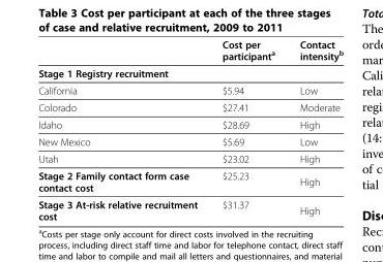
<table><thead><tr><td></td><td>Cost per participant<sup>a</sup></td><td>Contact intensity<sup>b</sup></td></tr></thead><tbody><tr><td colspan="3">Stage 1 Registry recruitment</td></tr><tr><td>California</td><td>$5.94</td><td>Low</td></tr><tr><td>Colorado</td><td>$27.41</td><td>Moderate</td></tr><tr><td>Idaho</td><td>$28.69</td><td>High</td></tr><tr><td>New Mexico</td><td>$5.69</td><td>Low</td></tr><tr><td>Utah</td><td>$23.02</td><td>High</td></tr><tr><td>Stage 2 Family contact form case contact cost</td><td>$25.23</td><td>High</td></tr><tr><td>Stage 3 At-risk relative recruitment cost</td><td>$31.37</td><td>High</td></tr></tbody></table>